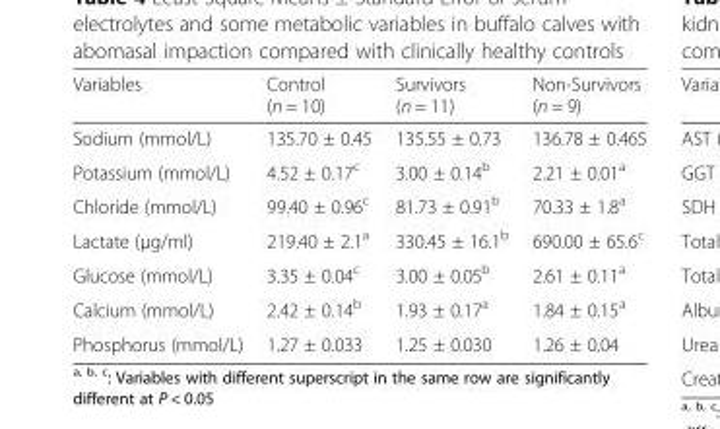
<table><thead><tr><td>Variables</td><td>Control (n = 10)</td><td>Survivors (n = 11)</td><td>Non-Survivors (n = 9)</td></tr></thead><tbody><tr><td>Sodium (mmol/L)</td><td>135.70 ± 0.45</td><td>135.55 ± 0.73</td><td>136.78 ± 0.465</td></tr><tr><td>Potassium (mmol/L)</td><td>4.52 ± 0.17<sup>c</sup></td><td>3.00 ± 0.14<sup>b</sup></td><td>2.21 ± 0.01<sup>a</sup></td></tr><tr><td>Chloride (mmol/L)</td><td>99.40 ± 0.96<sup>c</sup></td><td>81.73 ± 0.91<sup>b</sup></td><td>70.33 ± 1.8<sup>a</sup></td></tr><tr><td>Lactate (μg/ml)</td><td>219.40 ± 2.1<sup>a</sup></td><td>330.45 ± 16.1<sup>b</sup></td><td>690.00 ± 65.6<sup>c</sup></td></tr><tr><td>Glucose (mmol/L)</td><td>3.35 ± 0.04<sup>c</sup></td><td>3.00 ± 0.05<sup>b</sup></td><td>2.61 ± 0.11<sup>a</sup></td></tr><tr><td>Calcium (mmol/L)</td><td>2.42 ± 0.14<sup>b</sup></td><td>1.93 ± 0.17<sup>a</sup></td><td>1.84 ± 0.15<sup>a</sup></td></tr><tr><td>Phosphorus (mmol/L)</td><td>1.27 ± 0.033</td><td>1.25 ± 0.030</td><td>1.26 ± 0.04</td></tr></tbody></table>